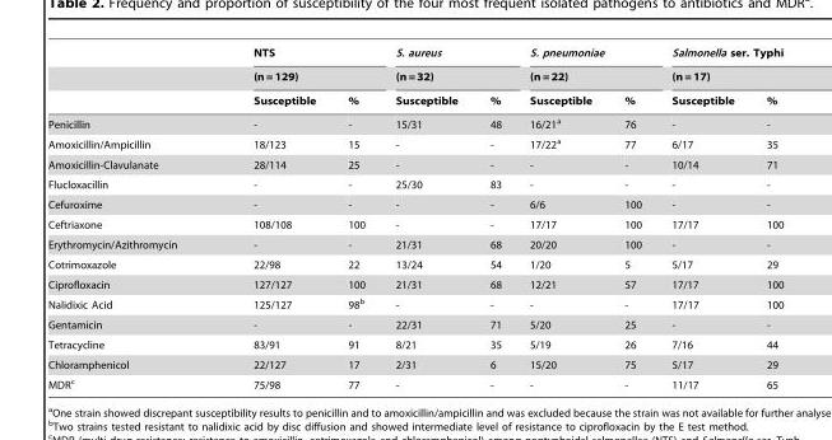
<table><thead><tr><td rowspan="3"></td><td rowspan="2" colspan="2">NTS (n = 129)</td><td rowspan="2" colspan="2">S. aureus (n = 32)</td><td rowspan="2" colspan="2">S. pneumoniae (n = 22)</td><td rowspan="2" colspan="2">Salmonella ser. Typhi (n = 17)</td></tr><tr></tr><tr><td>Susceptible</td><td>%</td><td>Susceptible</td><td>%</td><td>Susceptible</td><td>%</td><td>Susceptible</td><td>%</td></tr></thead><tbody><tr><td>Penicillin</td><td>-</td><td>-</td><td>15/31</td><td>48</td><td>16/21<sup>a</sup></td><td>76</td><td>-</td><td>-</td></tr><tr><td>Amoxicillin/Ampicillin</td><td>18/123</td><td>15</td><td>-</td><td>-</td><td>17/22<sup>a</sup></td><td>77</td><td>6/17</td><td>35</td></tr><tr><td>Amoxicillin-Clavulanate</td><td>28/114</td><td>25</td><td>-</td><td>-</td><td>-</td><td>-</td><td>10/14</td><td>71</td></tr><tr><td>Flucloxacillin</td><td>-</td><td>-</td><td>25/30</td><td>83</td><td>-</td><td>-</td><td>-</td><td>-</td></tr><tr><td>Cefuroxime</td><td>-</td><td>-</td><td>-</td><td>-</td><td>6/6</td><td>100</td><td>-</td><td>-</td></tr><tr><td>Ceftriaxone</td><td>108/108</td><td>100</td><td>-</td><td>-</td><td>17/17</td><td>100</td><td>17/17</td><td>100</td></tr><tr><td>Erythromycin/Azithromycin</td><td>-</td><td>-</td><td>21/31</td><td>68</td><td>20/20</td><td>100</td><td>-</td><td>-</td></tr><tr><td>Cotrimoxazole</td><td>22/98</td><td>22</td><td>13/24</td><td>54</td><td>1/20</td><td>5</td><td>5/17</td><td>29</td></tr><tr><td>Ciprofloxacin</td><td>127/127</td><td>100</td><td>21/31</td><td>68</td><td>12/21</td><td>57</td><td>17/17</td><td>100</td></tr><tr><td>Nalidixic Acid</td><td>125/127</td><td>98<sup>b</sup></td><td>-</td><td>-</td><td>-</td><td>-</td><td>17/17</td><td>100</td></tr><tr><td>Gentamicin</td><td>-</td><td>-</td><td>22/31</td><td>71</td><td>5/20</td><td>25</td><td>-</td><td>-</td></tr><tr><td>Tetracycline</td><td>83/91</td><td>91</td><td>8/21</td><td>35</td><td>5/19</td><td>26</td><td>7/16</td><td>44</td></tr><tr><td>Chloramphenicol</td><td>22/127</td><td>17</td><td>2/31</td><td>6</td><td>15/20</td><td>75</td><td>5/17</td><td>29</td></tr><tr><td>MDR<sup>c</sup></td><td>75/98</td><td>77</td><td>-</td><td>-</td><td>-</td><td>-</td><td>11/17</td><td>65</td></tr></tbody></table>